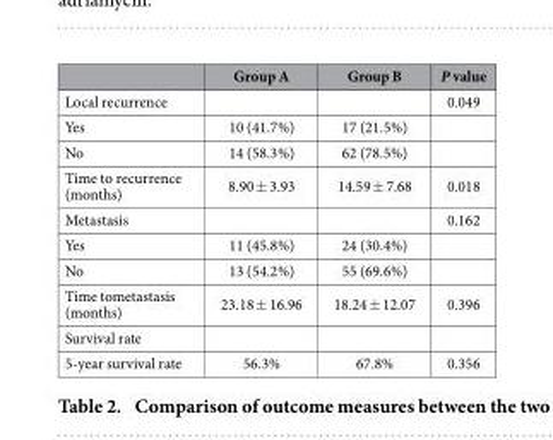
<table><thead><tr><td></td><td>Group A</td><td>Group B</td><td>P value</td></tr></thead><tbody><tr><td>Local recurrence</td><td></td><td></td><td>0.049</td></tr><tr><td>Yes</td><td>10 (41.7%)</td><td>17 (21.5%)</td><td></td></tr><tr><td>No</td><td>14 (58.3%)</td><td>62 (78.5%)</td><td></td></tr><tr><td>Time to recurrence (months)</td><td>8.90 ± 3.93</td><td>14.59 ± 7.68</td><td>0.018</td></tr><tr><td>Metastasis</td><td></td><td></td><td>0.162</td></tr><tr><td>Yes</td><td>11 (45.8%)</td><td>24 (30.4%)</td><td></td></tr><tr><td>No</td><td>13 (54.2%)</td><td>55 (69.6%)</td><td></td></tr><tr><td>Time tometastasis (months)</td><td>23.18 ± 16.96</td><td>18.24 ± 12.07</td><td>0.396</td></tr><tr><td colspan="4">Survival rate</td></tr><tr><td>5-year survival rate</td><td>56.3%</td><td>67.8%</td><td>0.356</td></tr></tbody></table>